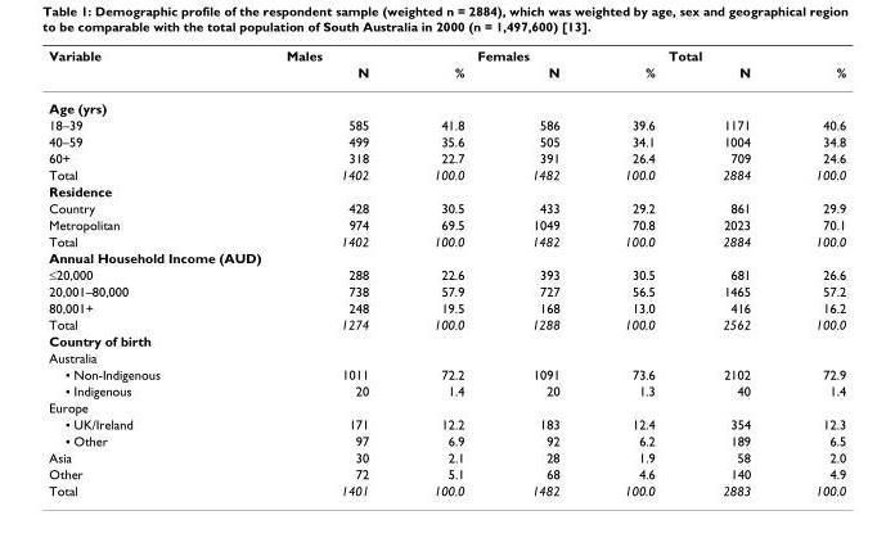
<table><thead><tr><td rowspan="2">Variable</td><td colspan="2">Males</td><td colspan="2">Females</td><td colspan="2">Total</td></tr><tr><td>N</td><td>%</td><td>N</td><td>%</td><td>N</td><td>%</td></tr></thead><tbody><tr><td colspan="7">Age (yrs)</td></tr><tr><td>18–39</td><td>585</td><td>41.8</td><td>586</td><td>39.6</td><td>1171</td><td>40.6</td></tr><tr><td>40–59</td><td>499</td><td>35.6</td><td>505</td><td>34.1</td><td>1004</td><td>34.8</td></tr><tr><td>60+</td><td>318</td><td>22.7</td><td>391</td><td>26.4</td><td>709</td><td>24.6</td></tr><tr><td>Total</td><td>1402</td><td>100.0</td><td>1482</td><td>100.0</td><td>2884</td><td>100.0</td></tr><tr><td colspan="7">Residence</td></tr><tr><td>Country</td><td>428</td><td>30.5</td><td>433</td><td>29.2</td><td>861</td><td>29.9</td></tr><tr><td>Metropolitan</td><td>974</td><td>69.5</td><td>1049</td><td>70.8</td><td>2023</td><td>70.1</td></tr><tr><td>Total</td><td>1402</td><td>100.0</td><td>1482</td><td>100.0</td><td>2884</td><td>100.0</td></tr><tr><td colspan="7">Annual Household Income (AUD)</td></tr><tr><td>≤20,000</td><td>288</td><td>22.6</td><td>393</td><td>30.5</td><td>681</td><td>26.6</td></tr><tr><td>20,001–80,000</td><td>738</td><td>57.9</td><td>727</td><td>56.5</td><td>1465</td><td>57.2</td></tr><tr><td>80,001+</td><td>248</td><td>19.5</td><td>168</td><td>13.0</td><td>416</td><td>16.2</td></tr><tr><td>Total</td><td>1274</td><td>100.0</td><td>1288</td><td>100.0</td><td>2562</td><td>100.0</td></tr><tr><td colspan="7">Country of birth</td></tr><tr><td colspan="7">Australia</td></tr><tr><td>▪ Non-Indigenous</td><td>1011</td><td>72.2</td><td>1091</td><td>73.6</td><td>2102</td><td>72.9</td></tr><tr><td>▪ Indigenous</td><td>20</td><td>1.4</td><td>20</td><td>1.3</td><td>40</td><td>1.4</td></tr><tr><td colspan="7">Europe</td></tr><tr><td>▪ UK/Ireland</td><td>171</td><td>12.2</td><td>183</td><td>12.4</td><td>354</td><td>12.3</td></tr><tr><td>▪ Other</td><td>97</td><td>6.9</td><td>92</td><td>6.2</td><td>189</td><td>6.5</td></tr><tr><td>Asia</td><td>30</td><td>2.1</td><td>28</td><td>1.9</td><td>58</td><td>2.0</td></tr><tr><td>Other</td><td>72</td><td>5.1</td><td>68</td><td>4.6</td><td>140</td><td>4.9</td></tr><tr><td>Total</td><td>1401</td><td>100.0</td><td>1482</td><td>100.0</td><td>2883</td><td>100.0</td></tr></tbody></table>